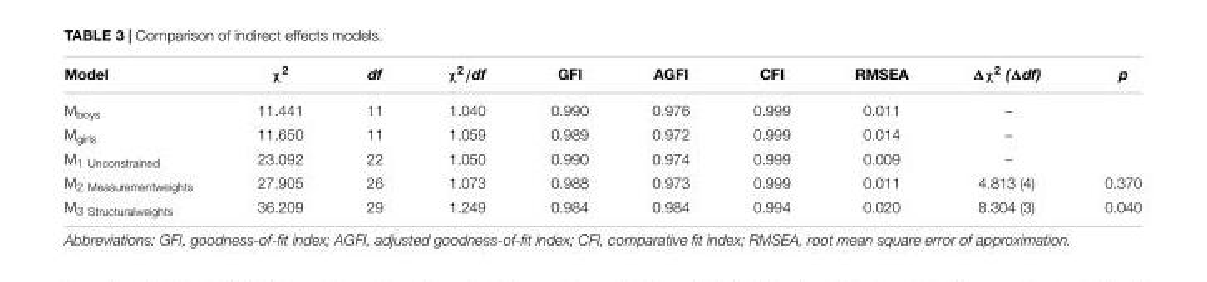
<table><thead><tr><td>Model</td><td>χ<sup>2</sup></td><td>df</td><td>χ<sup>2</sup>/df</td><td>GFI</td><td>AGFI</td><td>CFI</td><td>RMSEA</td><td>Δχ<sup>2</sup> (Δdf)</td><td>p</td></tr></thead><tbody><tr><td>M<sub>boys</sub></td><td>11.441</td><td>11</td><td>1.040</td><td>0.990</td><td>0.976</td><td>0.999</td><td>0.011</td><td>–</td><td></td></tr><tr><td>M<sub>girls</sub></td><td>11.650</td><td>11</td><td>1.059</td><td>0.989</td><td>0.972</td><td>0.999</td><td>0.014</td><td>–</td><td></td></tr><tr><td>M<sub>1 Unconstrained</sub></td><td>23.092</td><td>22</td><td>1.050</td><td>0.990</td><td>0.974</td><td>0.999</td><td>0.009</td><td>–</td><td></td></tr><tr><td>M<sub>2 Measurementweights</sub></td><td>27.905</td><td>26</td><td>1.073</td><td>0.988</td><td>0.973</td><td>0.999</td><td>0.011</td><td>4.813 (4)</td><td>0.370</td></tr><tr><td>M<sub>3 Structuralweights</sub></td><td>36.209</td><td>29</td><td>1.249</td><td>0.984</td><td>0.984</td><td>0.994</td><td>0.020</td><td>8.304 (3)</td><td>0.040</td></tr></tbody></table>